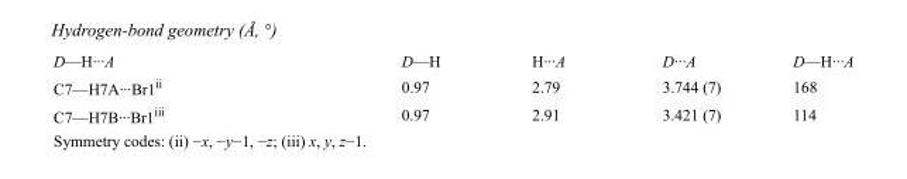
<table><tbody><tr><td>D—H···A</td><td>D—H</td><td>H···A</td><td>D···A</td><td>D—H···A</td></tr><tr><td>C7—H7A···Br1<sup>ii</sup></td><td>0.97</td><td>2.79</td><td>3.744 (7)</td><td>168</td></tr><tr><td>C7—H7B···Br1<sup>iii</sup></td><td>0.97</td><td>2.91</td><td>3.421 (7)</td><td>114</td></tr></tbody></table>